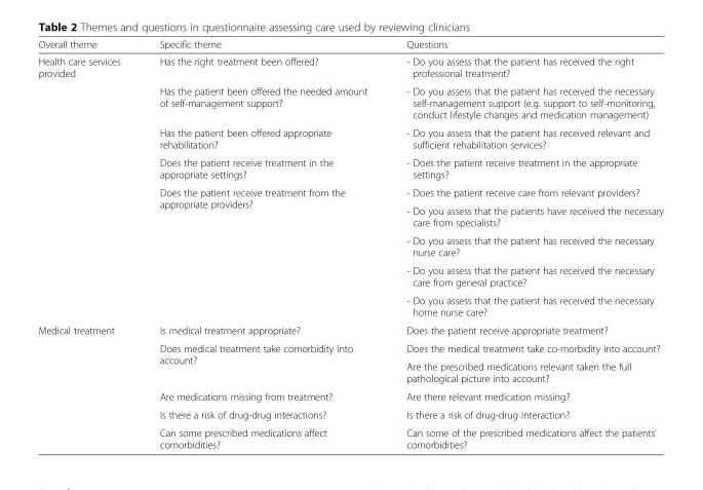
<table><thead><tr><td>Overall theme</td><td>Specific theme</td><td>Questions</td></tr></thead><tbody><tr><td rowspan="9">Health care services provided</td><td>Has the right treatment been offered?</td><td>- Do you assess that the patient has received the right professional treatment?</td></tr><tr><td>Has the patient been offered the needed amount of self-management support?</td><td>- Do you assess that the patient has received the necessary self-management support (e.g. support to self-monitoring, conduct lifestyle changes and medication management)</td></tr><tr><td>Has the patient been offered appropriate rehabilitation?</td><td>- Do you assess that the patient has received relevant and sufficient rehabilitation services?</td></tr><tr><td>Does the patient receive treatment in the appropriate settings?</td><td>- Does the patient receive treatment in the appropriate settings?</td></tr><tr><td rowspan="5">Does the patient receive treatment from the appropriate providers?</td><td>- Does the patient receive care from relevant providers?</td></tr><tr><td>- Do you assess that the patients have received the necessary care from specialists?</td></tr><tr><td>- Do you assess that the patient has received the necessary nurse care?</td></tr><tr><td>- Do you assess that the patient has received the necessary care from general practice?</td></tr><tr><td>- Do you assess that the patient has received the necessary home nurse care?</td></tr><tr><td rowspan="6">Medical treatment</td><td>Is medical treatment appropriate?</td><td>Does the patient receive appropriate treatment?</td></tr><tr><td rowspan="2">Does medical treatment take comorbidity into account?</td><td>Does the medical treatment take co-morbidity into account?</td></tr><tr><td>Are the prescribed medications relevant taken the full pathological picture into account?</td></tr><tr><td>Are medications missing from treatment?</td><td>Are there relevant medication missing?</td></tr><tr><td>Is there a risk of drug-drug interactions?</td><td>Is there a risk of drug-drug interaction?</td></tr><tr><td>Can some prescribed medications affect comorbidities?</td><td>Can some of the prescribed medications affect the patients’ comorbidities?</td></tr></tbody></table>